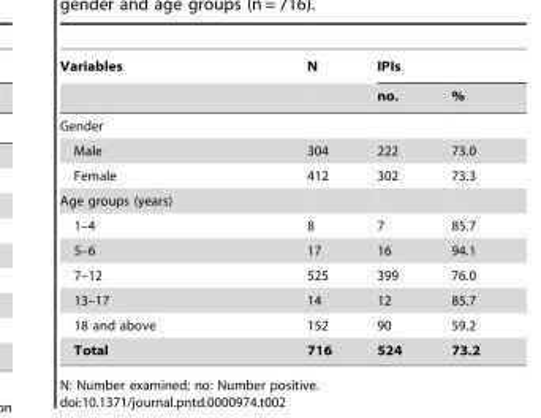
<table><thead><tr><td rowspan="2">Variables</td><td rowspan="2">N</td><td colspan="2">IPIs</td></tr><tr><td>no.</td><td>%</td></tr></thead><tbody><tr><td colspan="4">Gender</td></tr><tr><td>Male</td><td>304</td><td>222</td><td>73.0</td></tr><tr><td>Female</td><td>412</td><td>302</td><td>73.3</td></tr><tr><td colspan="4">Age groups (years)</td></tr><tr><td>1–4</td><td>8</td><td>7</td><td>85.7</td></tr><tr><td>5–6</td><td>17</td><td>16</td><td>94.1</td></tr><tr><td>7–12</td><td>525</td><td>399</td><td>76.0</td></tr><tr><td>13–17</td><td>14</td><td>12</td><td>85.7</td></tr><tr><td>18 and above</td><td>152</td><td>90</td><td>59.2</td></tr><tr><td>Total</td><td>716</td><td>524</td><td>73.2</td></tr></tbody></table>